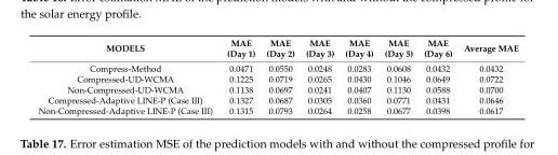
<table><thead><tr><td>MODELS</td><td>MAE (Day 1)</td><td>MAE (Day 2)</td><td>MAE (Day 3)</td><td>MAE (Day 4)</td><td>MAE (Day 5)</td><td>MAE (Day 6)</td><td>Average MAE</td></tr></thead><tbody><tr><td>Compress-Method</td><td>0.0471</td><td>0.0550</td><td>0.0248</td><td>0.0283</td><td>0.0608</td><td>0.0432</td><td>0.0432</td></tr><tr><td>Compressed-UD-WCMA</td><td>0.1225</td><td>0.0719</td><td>0.0265</td><td>0.0430</td><td>0.1046</td><td>0.0649</td><td>0.0722</td></tr><tr><td>Non-Compressed-UD-WCMA</td><td>0.1138</td><td>0.0697</td><td>0.0241</td><td>0.0407</td><td>0.1130</td><td>0.0588</td><td>0.0700</td></tr><tr><td>Compressed-Adaptive LINE-P (Case III)</td><td>0.1327</td><td>0.0687</td><td>0.0305</td><td>0.0360</td><td>0.0771</td><td>0.0431</td><td>0.0646</td></tr><tr><td>Non-Compressed-Adaptive LINE-P (Case III)</td><td>0.1315</td><td>0.0793</td><td>0.0264</td><td>0.0258</td><td>0.0677</td><td>0.0398</td><td>0.0617</td></tr></tbody></table>